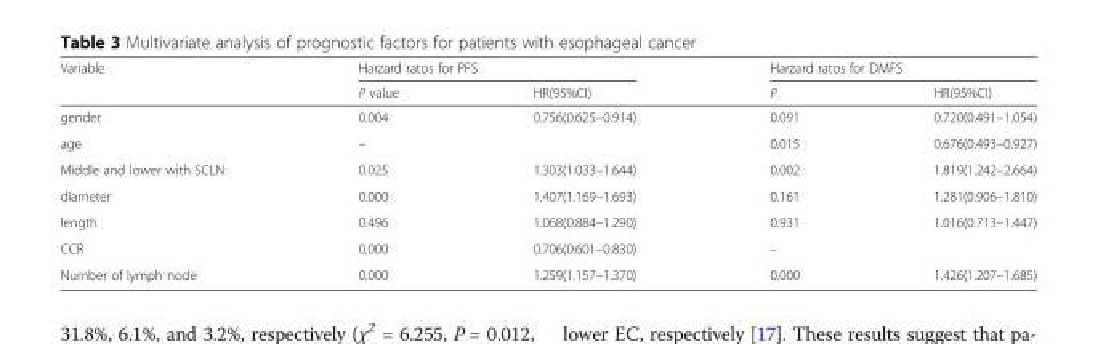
<table><thead><tr><td rowspan="2">Variable</td><td colspan="2">Harzard ratos for PFS</td><td colspan="2">Harzard ratos for DMFS</td></tr><tr><td>P value</td><td>HR(95%CI)</td><td>P</td><td>HR(95%CI)</td></tr></thead><tbody><tr><td>gender</td><td>0.004</td><td>0.756(0.625–0.914)</td><td>0.091</td><td>0.720(0.491–1.054)</td></tr><tr><td>age</td><td colspan="2">–</td><td>0.015</td><td>0.676(0.493–0.927)</td></tr><tr><td>Middle and lower with SCLN</td><td>0.025</td><td>1.303(1.033–1.644)</td><td>0.002</td><td>1.819(1.242–2.664)</td></tr><tr><td>diameter</td><td>0.000</td><td>1.407(1.169–1.693)</td><td>0.161</td><td>1.281(0.906–1.810)</td></tr><tr><td>length</td><td>0.496</td><td>1.068(0.884–1.290)</td><td>0.931</td><td>1.016(0.713–1.447)</td></tr><tr><td>CCR</td><td>0.000</td><td>0.706(0.601–0.830)</td><td colspan="2">–</td></tr><tr><td>Number of lymph node</td><td>0.000</td><td>1.259(1.157–1.370)</td><td>0.000</td><td>1.426(1.207–1.685)</td></tr></tbody></table>